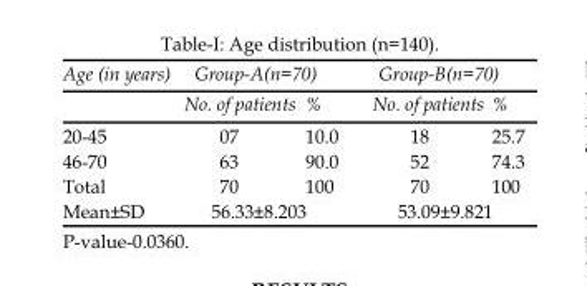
<table><thead><tr><td rowspan="3">Age (in years) 20-45</td><td rowspan="2" colspan="2">Group-A(n=70) No. of patients %</td><td rowspan="2" colspan="2">Group-B(n=70) No. of patients %</td></tr><tr></tr><tr><td>07</td><td>10.0</td><td>18</td><td>25.7</td></tr></thead><tbody><tr><td>46-70</td><td>63</td><td>90.0</td><td>52</td><td>74.3</td></tr><tr><td>Total</td><td>70</td><td>100</td><td>70</td><td>100</td></tr><tr><td>Mean±SD</td><td colspan="2">56.33±8.203</td><td colspan="2">53.09±9.821</td></tr></tbody></table>